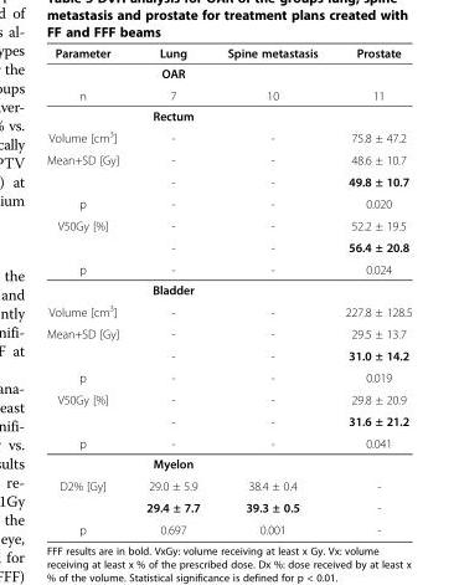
<table><thead><tr><td>Parameter</td><td>Lung</td><td>Spine metastasis</td><td>Prostate</td></tr></thead><tbody><tr><td></td><td>OAR</td><td></td><td></td></tr><tr><td rowspan="2">n</td><td>7</td><td>10</td><td>11</td></tr><tr><td>Rectum</td><td></td><td></td></tr><tr><td>Volume [cm<sup>3</sup>]</td><td>-</td><td>-</td><td>75.8 ± 47.2</td></tr><tr><td rowspan="2">Mean+SD [Gy]</td><td>-</td><td>-</td><td>48.6 ± 10.7</td></tr><tr><td>-</td><td>-</td><td>49.8 ± 10.7</td></tr><tr><td>p</td><td>-</td><td>-</td><td>0.020</td></tr><tr><td rowspan="2">V50Gy [%]</td><td>-</td><td>-</td><td>52.2 ± 19.5</td></tr><tr><td>-</td><td>-</td><td>56.4 ± 20.8</td></tr><tr><td rowspan="2">p</td><td>-</td><td>-</td><td>0.024</td></tr><tr><td>Bladder</td><td></td><td></td></tr><tr><td>Volume [cm<sup>3</sup>]</td><td>-</td><td>-</td><td>227.8 ± 128.5</td></tr><tr><td rowspan="2">Mean+SD [Gy]</td><td>-</td><td>-</td><td>29.5 ± 13.7</td></tr><tr><td>-</td><td>-</td><td>31.0 ± 14.2</td></tr><tr><td>p</td><td>-</td><td>-</td><td>0.019</td></tr><tr><td rowspan="2">V50Gy [%]</td><td>-</td><td>-</td><td>29.8 ± 20.9</td></tr><tr><td>-</td><td>-</td><td>31.6 ± 21.2</td></tr><tr><td rowspan="2">p</td><td>-</td><td>-</td><td>0.041</td></tr><tr><td>Myelon</td><td></td><td></td></tr><tr><td rowspan="2">D2% [Gy]</td><td>29.0 ± 5.9</td><td>38.4 ± 0.4</td><td>-</td></tr><tr><td>29.4 ± 7.7</td><td>39.3 ± 0.5</td><td>-</td></tr><tr><td>p</td><td>0.697</td><td>0.001</td><td>-</td></tr></tbody></table>